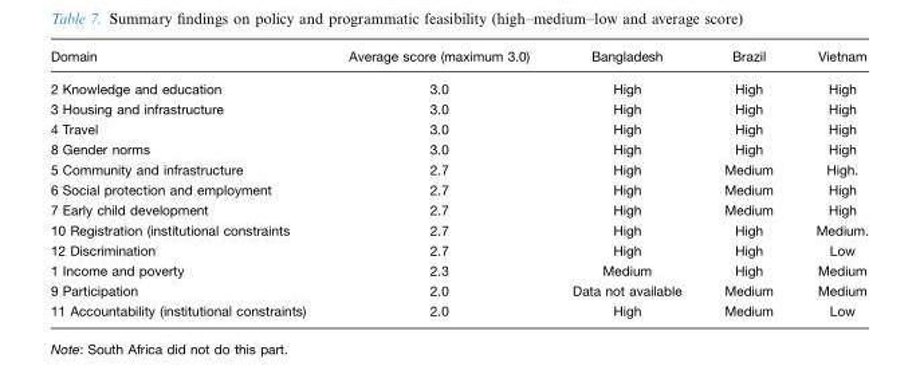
<table><thead><tr><td>Domain</td><td>Average score (maximum 3.0)</td><td>Bangladesh</td><td>Brazil</td><td>Vietnam</td></tr></thead><tbody><tr><td>2 Knowledge and education</td><td>3.0</td><td>High</td><td>High</td><td>High</td></tr><tr><td>3 Housing and infrastructure</td><td>3.0</td><td>High</td><td>High</td><td>High</td></tr><tr><td>4 Travel</td><td>3.0</td><td>High</td><td>High</td><td>High</td></tr><tr><td>8 Gender norms</td><td>3.0</td><td>High</td><td>High</td><td>High</td></tr><tr><td>5 Community and infrastructure</td><td>2.7</td><td>High</td><td>Medium</td><td>High.</td></tr><tr><td>6 Social protection and employment</td><td>2.7</td><td>High</td><td>Medium</td><td>High</td></tr><tr><td>7 Early child development</td><td>2.7</td><td>High</td><td>Medium</td><td>High</td></tr><tr><td>10 Registration (institutional constraints</td><td>2.7</td><td>High</td><td>High</td><td>Medium.</td></tr><tr><td>12 Discrimination</td><td>2.7</td><td>High</td><td>High</td><td>Low</td></tr><tr><td>1 Income and poverty</td><td>2.3</td><td>Medium</td><td>High</td><td>Medium</td></tr><tr><td>9 Participation</td><td>2.0</td><td>Data not available</td><td>Medium</td><td>Medium</td></tr><tr><td>11 Accountability (institutional constraints)</td><td>2.0</td><td>High</td><td>Medium</td><td>Low</td></tr></tbody></table>